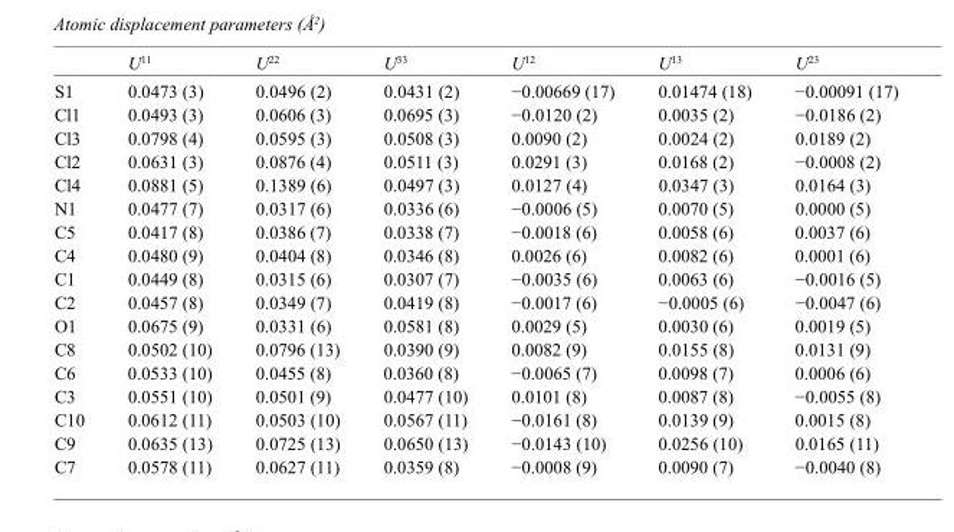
<table><thead><tr><td></td><td>U<sup>11</sup></td><td>U<sup>22</sup></td><td>U<sup>33</sup></td><td>U<sup>12</sup></td><td>U<sup>13</sup></td><td>U<sup>23</sup></td></tr></thead><tbody><tr><td>S1</td><td>0.0473 (3)</td><td>0.0496 (2)</td><td>0.0431 (2)</td><td>−0.00669 (17)</td><td>0.01474 (18)</td><td>−0.00091 (17)</td></tr><tr><td>Cl1</td><td>0.0493 (3)</td><td>0.0606 (3)</td><td>0.0695 (3)</td><td>−0.0120 (2)</td><td>0.0035 (2)</td><td>−0.0186 (2)</td></tr><tr><td>Cl3</td><td>0.0798 (4)</td><td>0.0595 (3)</td><td>0.0508 (3)</td><td>0.0090 (2)</td><td>0.0024 (2)</td><td>0.0189 (2)</td></tr><tr><td>Cl2</td><td>0.0631 (3)</td><td>0.0876 (4)</td><td>0.0511 (3)</td><td>0.0291 (3)</td><td>0.0168 (2)</td><td>−0.0008 (2)</td></tr><tr><td>Cl4</td><td>0.0881 (5)</td><td>0.1389 (6)</td><td>0.0497 (3)</td><td>0.0127 (4)</td><td>0.0347 (3)</td><td>0.0164 (3)</td></tr><tr><td>N1</td><td>0.0477 (7)</td><td>0.0317 (6)</td><td>0.0336 (6)</td><td>−0.0006 (5)</td><td>0.0070 (5)</td><td>0.0000 (5)</td></tr><tr><td>C5</td><td>0.0417 (8)</td><td>0.0386 (7)</td><td>0.0338 (7)</td><td>−0.0018 (6)</td><td>0.0058 (6)</td><td>0.0037 (6)</td></tr><tr><td>C4</td><td>0.0480 (9)</td><td>0.0404 (8)</td><td>0.0346 (8)</td><td>0.0026 (6)</td><td>0.0082 (6)</td><td>0.0001 (6)</td></tr><tr><td>C1</td><td>0.0449 (8)</td><td>0.0315 (6)</td><td>0.0307 (7)</td><td>−0.0035 (6)</td><td>0.0063 (6)</td><td>−0.0016 (5)</td></tr><tr><td>C2</td><td>0.0457 (8)</td><td>0.0349 (7)</td><td>0.0419 (8)</td><td>−0.0017 (6)</td><td>−0.0005 (6)</td><td>−0.0047 (6)</td></tr><tr><td>O1</td><td>0.0675 (9)</td><td>0.0331 (6)</td><td>0.0581 (8)</td><td>0.0029 (5)</td><td>0.0030 (6)</td><td>0.0019 (5)</td></tr><tr><td>C8</td><td>0.0502 (10)</td><td>0.0796 (13)</td><td>0.0390 (9)</td><td>0.0082 (9)</td><td>0.0155 (8)</td><td>0.0131 (9)</td></tr><tr><td>C6</td><td>0.0533 (10)</td><td>0.0455 (8)</td><td>0.0360 (8)</td><td>−0.0065 (7)</td><td>0.0098 (7)</td><td>0.0006 (6)</td></tr><tr><td>C3</td><td>0.0551 (10)</td><td>0.0501 (9)</td><td>0.0477 (10)</td><td>0.0101 (8)</td><td>0.0087 (8)</td><td>−0.0055 (8)</td></tr><tr><td>C10</td><td>0.0612 (11)</td><td>0.0503 (10)</td><td>0.0567 (11)</td><td>−0.0161 (8)</td><td>0.0139 (9)</td><td>0.0015 (8)</td></tr><tr><td>C9</td><td>0.0635 (13)</td><td>0.0725 (13)</td><td>0.0650 (13)</td><td>−0.0143 (10)</td><td>0.0256 (10)</td><td>0.0165 (11)</td></tr><tr><td>C7</td><td>0.0578 (11)</td><td>0.0627 (11)</td><td>0.0359 (8)</td><td>−0.0008 (9)</td><td>0.0090 (7)</td><td>−0.0040 (8)</td></tr></tbody></table>